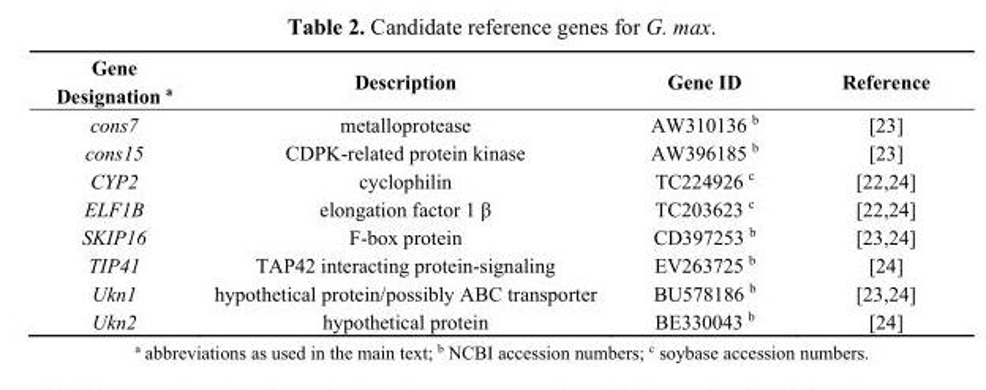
<table><thead><tr><td>Gene Designation <sup>a</sup></td><td>Description</td><td>Gene ID</td><td>Reference</td></tr></thead><tbody><tr><td>cons7</td><td>metalloprotease</td><td>AW310136 <sup>b</sup></td><td>[23]</td></tr><tr><td>cons15</td><td>CDPK-related protein kinase</td><td>AW396185 <sup>b</sup></td><td>[23]</td></tr><tr><td>CYP2</td><td>cyclophilin</td><td>TC224926 <sup>c</sup></td><td>[22,24]</td></tr><tr><td>ELF1B</td><td>elongation factor 1 β</td><td>TC203623 <sup>c</sup></td><td>[22,24]</td></tr><tr><td>SKIP16</td><td>F-box protein</td><td>CD397253 <sup>b</sup></td><td>[23,24]</td></tr><tr><td>TIP41</td><td>TAP42 interacting protein-signaling</td><td>EV263725 <sup>b</sup></td><td>[24]</td></tr><tr><td>Ukn1</td><td>hypothetical protein/possibly ABC transporter</td><td>BU578186 <sup>b</sup></td><td>[23,24]</td></tr><tr><td>Ukn2</td><td>hypothetical protein</td><td>BE330043 <sup>b</sup></td><td>[24]</td></tr></tbody></table>